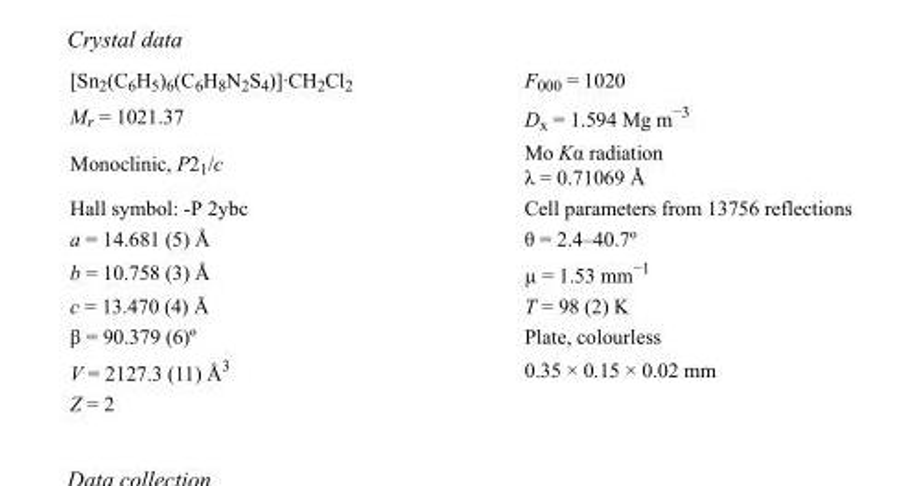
<table><tbody><tr><td>[Sn<sub>2</sub>(C<sub>6</sub>H<sub>5</sub>)<sub>6</sub>(C<sub>6</sub>H<sub>8</sub>N<sub>2</sub>S<sub>4</sub>)]·CH<sub>2</sub>Cl<sub>2</sub></td><td>F<sub>000</sub> = 1020</td></tr><tr><td>M<sub>r</sub> = 1021.37</td><td>D<sub>x</sub> = 1.594 Mg m<sup>−3</sup></td></tr><tr><td>Monoclinic, P2<sub>1</sub>/c</td><td>Mo Kα radiation λ = 0.71069 Å</td></tr><tr><td>Hall symbol: -P 2ybc</td><td>Cell parameters from 13756 reflections</td></tr><tr><td>a = 14.681 (5) Å</td><td>θ = 2.4–40.7º</td></tr><tr><td>b = 10.758 (3) Å</td><td>µ = 1.53 mm<sup>−1</sup></td></tr><tr><td>c = 13.470 (4) Å</td><td>T = 98 (2) K</td></tr><tr><td>β = 90.379 (6)º</td><td>Plate, colourless</td></tr><tr><td>V = 2127.3 (11) Å<sup>3</sup></td><td>0.35 × 0.15 × 0.02 mm</td></tr><tr><td>Z = 2</td><td></td></tr></tbody></table>